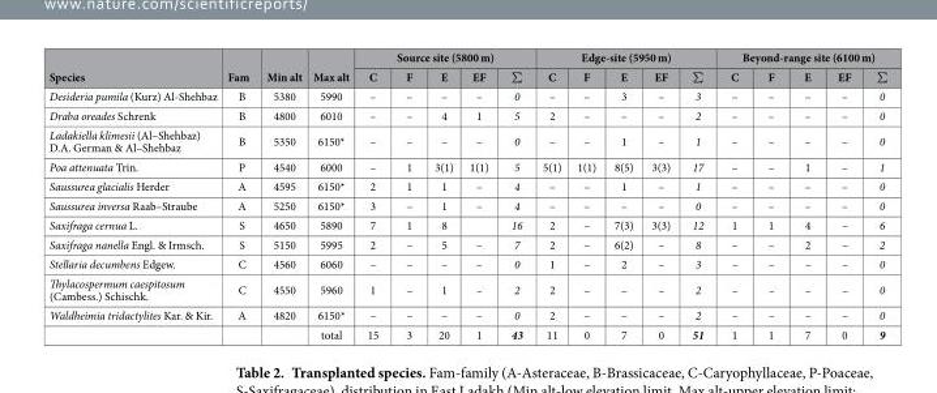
<table><thead><tr><td rowspan="2">Species</td><td rowspan="2">Fam</td><td rowspan="2">Min alt</td><td rowspan="2">Max alt</td><td colspan="5">Source site (5800 m)</td><td colspan="5">Edge-site (5950 m)</td><td colspan="5">Beyond-range site (6100 m)</td></tr><tr><td>C</td><td>F</td><td>E</td><td>EF</td><td>∑</td><td>C</td><td>F</td><td>E</td><td>EF</td><td>∑</td><td>C</td><td>F</td><td>E</td><td>EF</td><td>∑</td></tr></thead><tbody><tr><td>Desideria pumila (Kurz) Al-Shehbaz</td><td>B</td><td>5380</td><td>5990</td><td>–</td><td>–</td><td>–</td><td>–</td><td>0</td><td>–</td><td>–</td><td>3</td><td>–</td><td>3</td><td>–</td><td>–</td><td>–</td><td>–</td><td>0</td></tr><tr><td>Draba oreades Schrenk</td><td>B</td><td>4800</td><td>6010</td><td>–</td><td>–</td><td>4</td><td>1</td><td>5</td><td>2</td><td>–</td><td>–</td><td>–</td><td>2</td><td>–</td><td>–</td><td>–</td><td>–</td><td>0</td></tr><tr><td>Ladakiella klimesii (Al–Shehbaz) D.A. German &amp; Al–Shehbaz</td><td>B</td><td>5350</td><td>6150*</td><td>–</td><td>–</td><td>–</td><td>–</td><td>0</td><td>–</td><td>–</td><td>1</td><td>–</td><td>1</td><td>–</td><td>–</td><td>–</td><td>–</td><td>0</td></tr><tr><td>Poa attenuata Trin.</td><td>P</td><td>4540</td><td>6000</td><td>–</td><td>1</td><td>3(1)</td><td>1(1)</td><td>5</td><td>5(1)</td><td>1(1)</td><td>8(5)</td><td>3(3)</td><td>17</td><td>–</td><td>–</td><td>1</td><td>–</td><td>1</td></tr><tr><td>Saussurea glacialis Herder</td><td>A</td><td>4595</td><td>6150*</td><td>2</td><td>1</td><td>1</td><td>–</td><td>4</td><td>–</td><td>–</td><td>1</td><td>–</td><td>1</td><td>–</td><td>–</td><td>–</td><td>–</td><td>0</td></tr><tr><td>Saussurea inversa Raab–Straube</td><td>A</td><td>5250</td><td>6150*</td><td>3</td><td>–</td><td>1</td><td>–</td><td>4</td><td>–</td><td>–</td><td>–</td><td>–</td><td>0</td><td>–</td><td>–</td><td>–</td><td>–</td><td>0</td></tr><tr><td>Saxifraga cernua L.</td><td>S</td><td>4650</td><td>5890</td><td>7</td><td>1</td><td>8</td><td></td><td>16</td><td>2</td><td>–</td><td>7(3)</td><td>3(3)</td><td>12</td><td>1</td><td>1</td><td>4</td><td>–</td><td>6</td></tr><tr><td>Saxifraga nanella Engl. &amp; Irmsch.</td><td>S</td><td>5150</td><td>5995</td><td>2</td><td>–</td><td>5</td><td>–</td><td>7</td><td>2</td><td>–</td><td>6(2)</td><td>–</td><td>8</td><td>–</td><td>–</td><td>2</td><td>–</td><td>2</td></tr><tr><td>Stellaria decumbens Edgew.</td><td>C</td><td>4560</td><td>6060</td><td>–</td><td>–</td><td>–</td><td>–</td><td>0</td><td>1</td><td>–</td><td>2</td><td>–</td><td>3</td><td>–</td><td>–</td><td>–</td><td>–</td><td>0</td></tr><tr><td>Thylacospermum caespitosum (Cambess.) Schischk.</td><td>C</td><td>4550</td><td>5960</td><td>1</td><td>–</td><td>1</td><td>–</td><td>2</td><td>2</td><td>–</td><td>–</td><td>–</td><td>2</td><td>–</td><td>–</td><td>–</td><td>–</td><td>0</td></tr><tr><td rowspan="2">Waldheimia tridactylites Kar. &amp; Kir.</td><td>A</td><td>4820</td><td>6150*</td><td>–</td><td>–</td><td>–</td><td>–</td><td>0</td><td>2</td><td>–</td><td>–</td><td>–</td><td>2</td><td>–</td><td>–</td><td>–</td><td>–</td><td>0</td></tr><tr><td></td><td></td><td>total</td><td>15</td><td>3</td><td>20</td><td>1</td><td>43</td><td>11</td><td>0</td><td>7</td><td>0</td><td>51</td><td>1</td><td>1</td><td>7</td><td>0</td><td>9</td></tr></tbody></table>